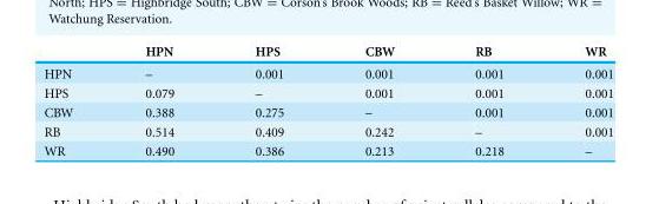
<table><thead><tr><td></td><td>HPN</td><td>HPS</td><td>CBW</td><td>RB</td><td>WR</td></tr></thead><tbody><tr><td>HPN</td><td>–</td><td>0.001</td><td>0.001</td><td>0.001</td><td>0.001</td></tr><tr><td>HPS</td><td>0.079</td><td>–</td><td>0.001</td><td>0.001</td><td>0.001</td></tr><tr><td>CBW</td><td>0.388</td><td>0.275</td><td>–</td><td>0.001</td><td>0.001</td></tr><tr><td>RB</td><td>0.514</td><td>0.409</td><td>0.242</td><td>–</td><td>0.001</td></tr><tr><td>WR</td><td>0.490</td><td>0.386</td><td>0.213</td><td>0.218</td><td>–</td></tr></tbody></table>